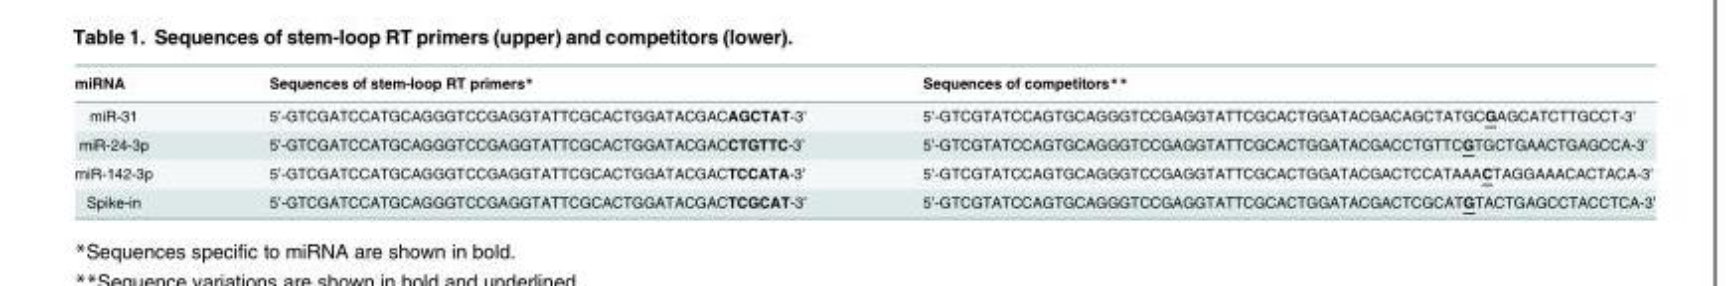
<table><thead><tr><td>miRNA</td><td>Sequences of stem-loop RT primers*</td><td>Sequences of competitors**</td></tr></thead><tbody><tr><td>miR-31</td><td>5’-GTCGATCCATGCAGGGTCCGAGGTATTCGCACTGGATACGACAGCTAT-3’</td><td>5’-GTCGTATCCAGTGCAGGGTCCGAGGTATTCGCACTGGATACGACAGCTATGCGAGCATCTTGCCT-3’</td></tr><tr><td>miR-24-3p</td><td>5’-GTCGATCCATGCAGGGTCCGAGGTATTCGCACTGGATACGACCTGTTC-3’</td><td>5’-GTCGTATCCAGTGCAGGGTCCGAGGTATTCGCACTGGATACGACCTGTTCGTGCTGAACTGAGCCA-3’</td></tr><tr><td>miR-142-3p</td><td>5’-GTCGATCCATGCAGGGTCCGAGGTATTCGCACTGGATACGACTCCATA-3’</td><td>5’-GTCGTATCCAGTGCAGGGTCCGAGGTATTCGCACTGGATACGACTCCATAAACTAGGAAACACTACA-3’</td></tr><tr><td>Spike-in</td><td>5’-GTCGATCCATGCAGGGTCCGAGGTATTCGCACTGGATACGACTCGCAT-3’</td><td>5’-GTCGTATCCAGTGCAGGGTCCGAGGTATTCGCACTGGATACGACTCGCATGTACTGAGCCTACCTCA-3’</td></tr></tbody></table>